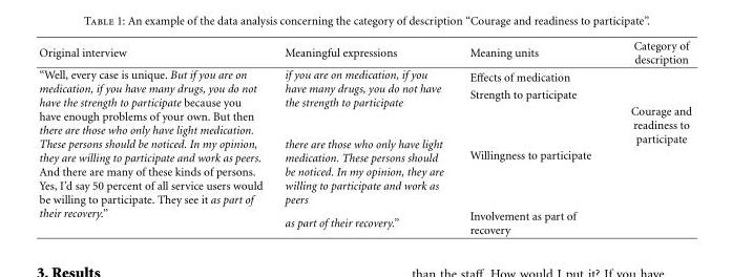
<table><thead><tr><td>Original interview</td><td>Meaningful expressions</td><td>Meaning units</td><td>Category of description</td></tr></thead><tbody><tr><td rowspan="4">“Well, every case is unique. But if you are on medication, if you have many drugs, you do not have the strength to participate because you have enough problems of your own. But then there are those who only have light medication. These persons should be noticed. In my opinion, they are willing to participate and work as peers. And there are many of these kinds of persons. Yes, I’d say 50 percent of all service users would be willing to participate. They see it as part of their recovery.”</td><td rowspan="2">if you are on medication, if you have many drugs, you do not have the strength to participate</td><td>Effects of medication</td><td></td></tr><tr><td>Strength to participate</td><td rowspan="3">Courage and readiness to participate</td></tr><tr><td>there are those who only have light medication. These persons should be noticed. In my opinion, they are willing to participate and work as peers</td><td>Willingness to participate</td></tr><tr><td>as part of their recovery.”</td><td>Involvement as part of recovery</td></tr></tbody></table>